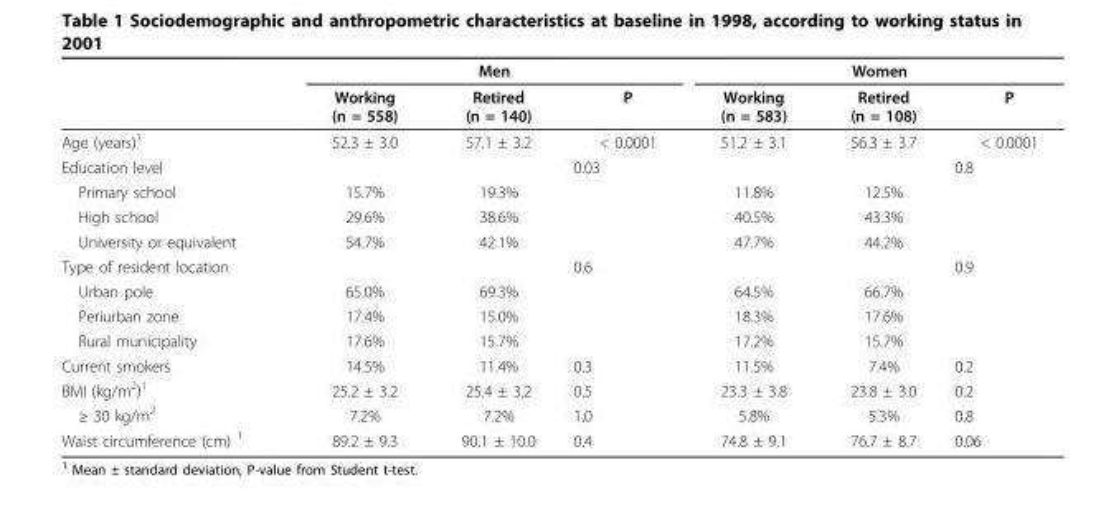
<table><thead><tr><td rowspan="2"></td><td colspan="3">Men</td><td colspan="3">Women</td></tr><tr><td>Working (n = 558)</td><td>Retired (n = 140)</td><td>P</td><td>Working (n = 583)</td><td>Retired (n = 108)</td><td>P</td></tr></thead><tbody><tr><td>Age (years)<sup>1</sup></td><td>52.3 ± 3.0</td><td>57.1 ± 3.2</td><td>&lt; 0.0001</td><td>51.2 ± 3.1</td><td>56.3 ± 3.7</td><td>&lt; 0.0001</td></tr><tr><td>Education level</td><td></td><td></td><td>0.03</td><td></td><td></td><td>0.8</td></tr><tr><td>Primary school</td><td>15.7%</td><td>19.3%</td><td></td><td>11.8%</td><td>12.5%</td><td></td></tr><tr><td>High school</td><td>29.6%</td><td>38.6%</td><td></td><td>40.5%</td><td>43.3%</td><td></td></tr><tr><td>University or equivalent</td><td>54.7%</td><td>42.1%</td><td></td><td>47.7%</td><td>44.2%</td><td></td></tr><tr><td>Type of resident location</td><td></td><td></td><td>0.6</td><td></td><td></td><td>0.9</td></tr><tr><td>Urban pole</td><td>65.0%</td><td>69.3%</td><td></td><td>64.5%</td><td>66.7%</td><td></td></tr><tr><td>Periurban zone</td><td>17.4%</td><td>15.0%</td><td></td><td>18.3%</td><td>17.6%</td><td></td></tr><tr><td>Rural municipality</td><td>17.6%</td><td>15.7%</td><td></td><td>17.2%</td><td>15.7%</td><td></td></tr><tr><td>Current smokers</td><td>14.5%</td><td>11.4%</td><td>0.3</td><td>11.5%</td><td>7.4%</td><td>0.2</td></tr><tr><td>BMI (kg/m<sup>2</sup>)<sup>1</sup></td><td>25.2 ± 3.2</td><td>25.4 ± 3.2</td><td>0.5</td><td>23.3 ± 3.8</td><td>23.8 ± 3.0</td><td>0.2</td></tr><tr><td>≥ 30 kg/m<sup>2</sup></td><td>7.2%</td><td>7.2%</td><td>1.0</td><td>5.8%</td><td>5.3%</td><td>0.8</td></tr><tr><td>Waist circumference (cm) <sup>1</sup></td><td>89.2 ± 9.3</td><td>90.1 ± 10.0</td><td>0.4</td><td>74.8 ± 9.1</td><td>76.7 ± 8.7</td><td>0.06</td></tr></tbody></table>